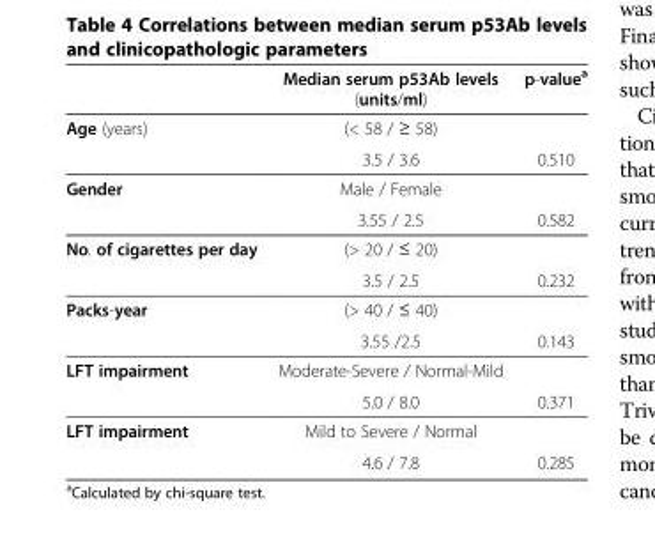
<table><thead><tr><td></td><td>Median serum p53Ab levels (units/ml)</td><td>p-value<sup>a</sup></td></tr></thead><tbody><tr><td rowspan="2">Age (years)</td><td>(&lt; 58 / ≥ 58)</td><td></td></tr><tr><td>3.5 / 3.6</td><td>0.510</td></tr><tr><td rowspan="2">Gender</td><td>Male / Female</td><td></td></tr><tr><td>3.55 / 2.5</td><td>0.582</td></tr><tr><td rowspan="2">No. of cigarettes per day</td><td>(&gt; 20 / ≤ 20)</td><td></td></tr><tr><td>3.5 / 2.5</td><td>0.232</td></tr><tr><td rowspan="2">Packs-year</td><td>(&gt; 40 / ≤ 40)</td><td></td></tr><tr><td>3.55 /2.5</td><td>0.143</td></tr><tr><td rowspan="2">LFT impairment</td><td>Moderate-Severe / Normal-Mild</td><td></td></tr><tr><td>5.0 / 8.0</td><td>0.371</td></tr><tr><td rowspan="2">LFT impairment</td><td>Mild to Severe / Normal</td><td></td></tr><tr><td>4.6 / 7.8</td><td>0.285</td></tr></tbody></table>